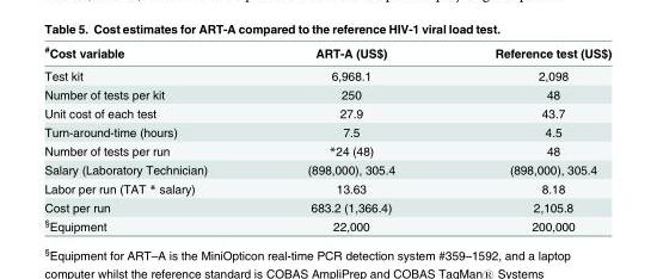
<table><thead><tr><td><sup>#</sup>Cost variable</td><td>ART-A (US$)</td><td>Reference test (US$)</td></tr></thead><tbody><tr><td>Test kit</td><td>6,968.1</td><td>2,098</td></tr><tr><td>Number of tests per kit</td><td>250</td><td>48</td></tr><tr><td>Unit cost of each test</td><td>27.9</td><td>43.7</td></tr><tr><td>Turn-around-time (hours)</td><td>7.5</td><td>4.5</td></tr><tr><td>Number of tests per run</td><td>*24 (48)</td><td>48</td></tr><tr><td>Salary (Laboratory Technician)</td><td>(898,000), 305.4</td><td>(898,000), 305.4</td></tr><tr><td>Labor per run (TAT * salary)</td><td>13.63</td><td>8.18</td></tr><tr><td>Cost per run</td><td>683.2 (1,366.4)</td><td>2,105.8</td></tr><tr><td><sup>§</sup>Equipment</td><td>22,000</td><td>200,000</td></tr></tbody></table>